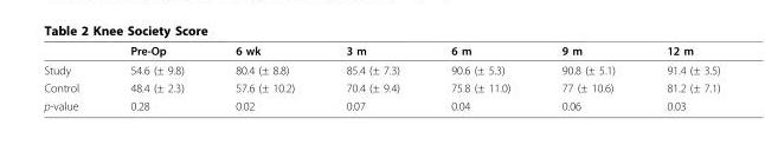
<table><thead><tr><td></td><td>Pre-Op</td><td>6 wk</td><td>3 m</td><td>6 m</td><td>9 m</td><td>12 m</td></tr></thead><tbody><tr><td>Study</td><td>54.6 (± 9.8)</td><td>80.4 (± 8.8)</td><td>85.4 (± 7.3)</td><td>90.6 (± 5.3)</td><td>90.8 (± 5.1)</td><td>91.4 (± 3.5)</td></tr><tr><td>Control</td><td>48.4 (± 2.3)</td><td>57.6 (± 10.2)</td><td>70.4 (± 9.4)</td><td>75.8 (± 11.0)</td><td>77 (± 10.6)</td><td>81.2 (± 7.1)</td></tr><tr><td>p-value</td><td>0.28</td><td>0.02</td><td>0.07</td><td>0.04</td><td>0.06</td><td>0.03</td></tr></tbody></table>